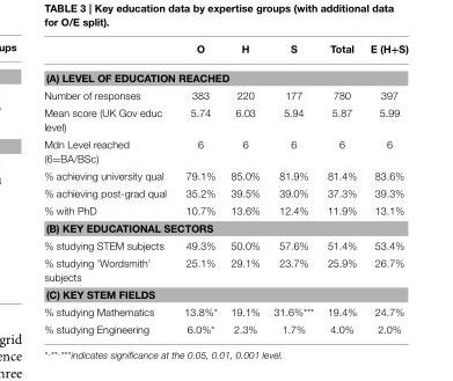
<table><thead><tr><td></td><td>O</td><td>H</td><td>S</td><td>Total</td><td>E (H+S)</td></tr></thead><tbody><tr><td colspan="6">(A) LEVEL OF EDUCATION REACHED</td></tr><tr><td>Number of responses</td><td>383</td><td>220</td><td>177</td><td>780</td><td>397</td></tr><tr><td>Mean score (UK Gov educ level)</td><td>5.74</td><td>6.03</td><td>5.94</td><td>5.87</td><td>5.99</td></tr><tr><td>Mdn Level reached (6=BA/BSc)</td><td>6</td><td>6</td><td>6</td><td>6</td><td>6</td></tr><tr><td>% achieving university qual</td><td>79.1%</td><td>85.0%</td><td>81.9%</td><td>81.4%</td><td>83.6%</td></tr><tr><td>% achieving post-grad qual</td><td>35.2%</td><td>39.5%</td><td>39.0%</td><td>37.3%</td><td>39.3%</td></tr><tr><td>% with PhD</td><td>10.7%</td><td>13.6%</td><td>12.4%</td><td>11.9%</td><td>13.1%</td></tr><tr><td colspan="6">(B) KEY EDUCATIONAL SECTORS</td></tr><tr><td>% studying STEM subjects</td><td>49.3%</td><td>50.0%</td><td>57.6%</td><td>51.4%</td><td>53.4%</td></tr><tr><td>% studying ’Wordsmith’ subjects</td><td>25.1%</td><td>29.1%</td><td>23.7%</td><td>25.9%</td><td>26.7%</td></tr><tr><td colspan="6">(C) KEY STEM FIELDS</td></tr><tr><td>% studying Mathematics</td><td>13.8%*</td><td>19.1%</td><td>31.6%***</td><td>19.4%</td><td>24.7%</td></tr><tr><td>% studying Engineering</td><td>6.0%*</td><td>2.3%</td><td>1.7%</td><td>4.0%</td><td>2.0%</td></tr></tbody></table>